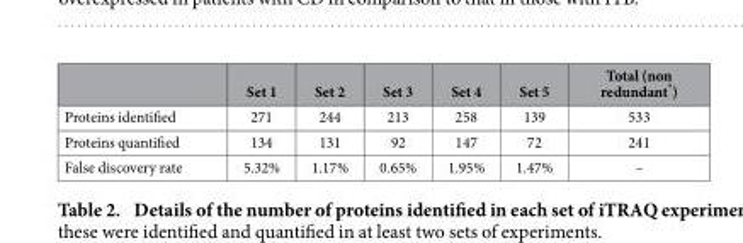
<table><thead><tr><td></td><td>Set 1</td><td>Set 2</td><td>Set 3</td><td>Set 4</td><td>Set 5</td><td>Total (non redundant*)</td></tr></thead><tbody><tr><td>Proteins identified</td><td>271</td><td>244</td><td>213</td><td>258</td><td>139</td><td>533</td></tr><tr><td>Proteins quantified</td><td>134</td><td>131</td><td>92</td><td>147</td><td>72</td><td>241</td></tr><tr><td>False discovery rate</td><td>5.32%</td><td>1.17%</td><td>0.65%</td><td>1.95%</td><td>1.47%</td><td>–</td></tr></tbody></table>